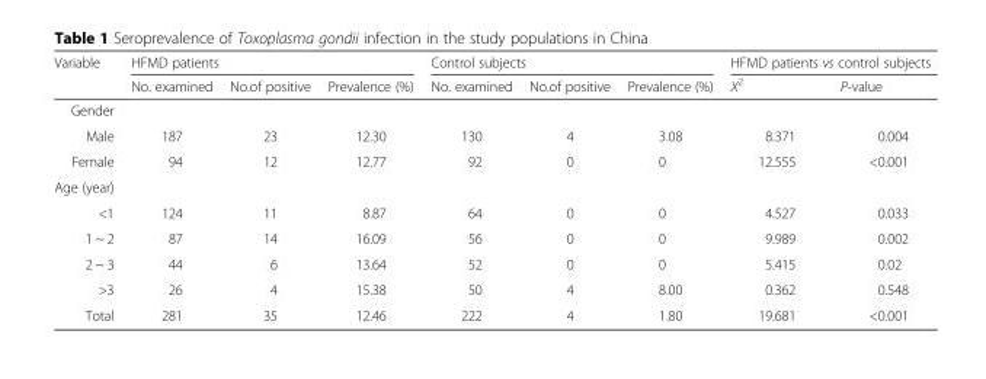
<table><thead><tr><td rowspan="2">Variable</td><td colspan="3">HFMD patients</td><td colspan="3">Control subjects</td><td colspan="2">HFMD patients vs control subjects</td></tr><tr><td>No. examined</td><td>No.of positive</td><td>Prevalence (%)</td><td>No. examined</td><td>No.of positive</td><td>Prevalence (%)</td><td>X<sup>2</sup></td><td>P-value</td></tr></thead><tbody><tr><td colspan="9">Gender</td></tr><tr><td>Male</td><td>187</td><td>23</td><td>12.30</td><td>130</td><td>4</td><td>3.08</td><td>8.371</td><td>0.004</td></tr><tr><td>Female</td><td>94</td><td>12</td><td>12.77</td><td>92</td><td>0</td><td>0</td><td>12.555</td><td>&lt;0.001</td></tr><tr><td colspan="9">Age (year)</td></tr><tr><td>&lt;1</td><td>124</td><td>11</td><td>8.87</td><td>64</td><td>0</td><td>0</td><td>4.527</td><td>0.033</td></tr><tr><td>1 ~ 2</td><td>87</td><td>14</td><td>16.09</td><td>56</td><td>0</td><td>0</td><td>9.989</td><td>0.002</td></tr><tr><td>2 ~ 3</td><td>44</td><td>6</td><td>13.64</td><td>52</td><td>0</td><td>0</td><td>5.415</td><td>0.02</td></tr><tr><td>&gt;3</td><td>26</td><td>4</td><td>15.38</td><td>50</td><td>4</td><td>8.00</td><td>0.362</td><td>0.548</td></tr><tr><td>Total</td><td>281</td><td>35</td><td>12.46</td><td>222</td><td>4</td><td>1.80</td><td>19.681</td><td>&lt;0.001</td></tr></tbody></table>